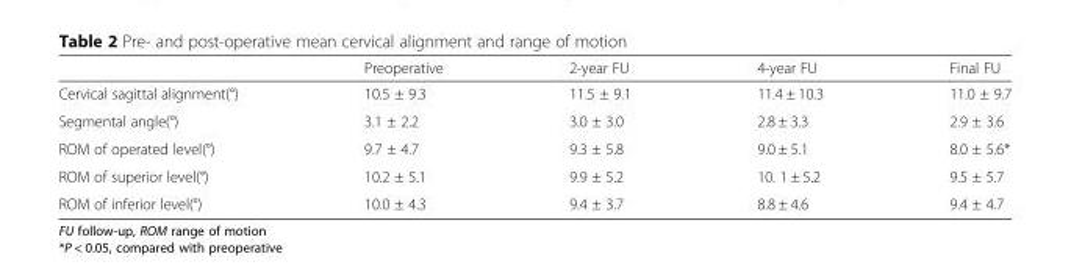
<table><thead><tr><td></td><td>Preoperative</td><td>2-year FU</td><td>4-year FU</td><td>Final FU</td></tr></thead><tbody><tr><td>Cervical sagittal alignment(°)</td><td>10.5 ± 9.3</td><td>11.5 ± 9.1</td><td>11.4 ± 10.3</td><td>11.0 ± 9.7</td></tr><tr><td>Segmental angle(°)</td><td>3.1 ± 2.2</td><td>3.0 ± 3.0</td><td>2.8 ± 3.3</td><td>2.9 ± 3.6</td></tr><tr><td>ROM of operated level(°)</td><td>9.7 ± 4.7</td><td>9.3 ± 5.8</td><td>9.0 ± 5.1</td><td>8.0 ± 5.6*</td></tr><tr><td>ROM of superior level(°)</td><td>10.2 ± 5.1</td><td>9.9 ± 5.2</td><td>10. 1 ± 5.2</td><td>9.5 ± 5.7</td></tr><tr><td>ROM of inferior level(°)</td><td>10.0 ± 4.3</td><td>9.4 ± 3.7</td><td>8.8 ± 4.6</td><td>9.4 ± 4.7</td></tr></tbody></table>